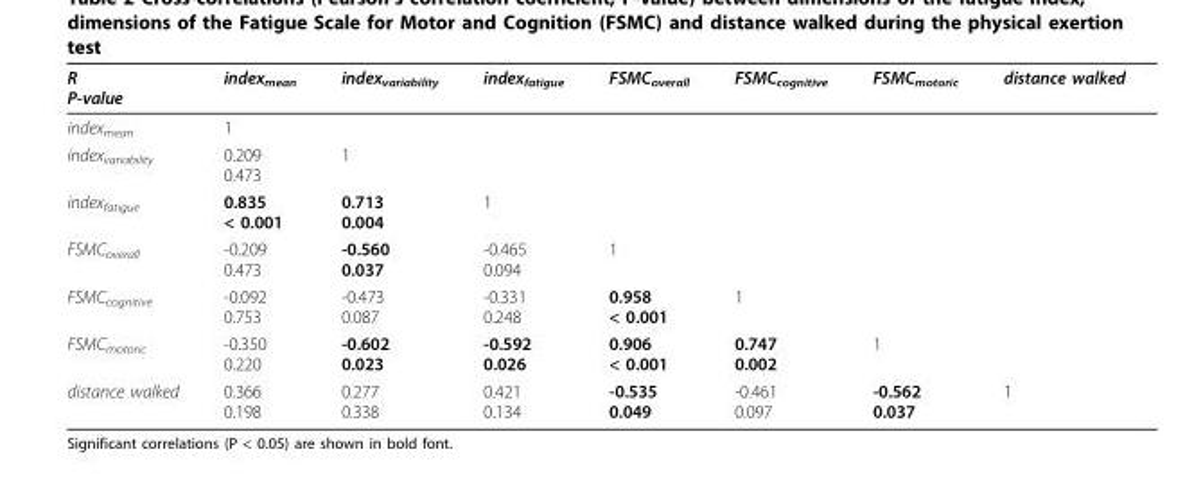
<table><thead><tr><td>R P-value</td><td>index<sub>mean</sub></td><td>index<sub>variability</sub></td><td>index<sub>fatigue</sub></td><td>FSMC<sub>overall</sub></td><td>FSMC<sub>cognitive</sub></td><td>FSMC<sub>motoric</sub></td><td>distance walked</td></tr></thead><tbody><tr><td>index<sub>mean</sub></td><td>1</td><td></td><td></td><td></td><td></td><td></td><td></td></tr><tr><td>index<sub>variability</sub></td><td>0.209 0.473</td><td>1</td><td></td><td></td><td></td><td></td><td></td></tr><tr><td>index<sub>fatigue</sub></td><td>0.835 &lt; 0.001</td><td>0.713 0.004</td><td>1</td><td></td><td></td><td></td><td></td></tr><tr><td>FSMC<sub>overall</sub></td><td>-0.209 0.473</td><td>-0.560 0.037</td><td>-0.465 0.094</td><td>1</td><td></td><td></td><td></td></tr><tr><td>FSMC<sub>cognitive</sub></td><td>-0.092 0.753</td><td>-0.473 0.087</td><td>-0.331 0.248</td><td>0.958 &lt; 0.001</td><td>1</td><td></td><td></td></tr><tr><td>FSMC<sub>motoric</sub></td><td>-0.350 0.220</td><td>-0.602 0.023</td><td>-0.592 0.026</td><td>0.906 &lt; 0.001</td><td>0.747 0.002</td><td>1</td><td></td></tr><tr><td>distance walked</td><td>0.366 0.198</td><td>0.277 0.338</td><td>0.421 0.134</td><td>-0.535 0.049</td><td>-0.461 0.097</td><td>-0.562 0.037</td><td>1</td></tr></tbody></table>